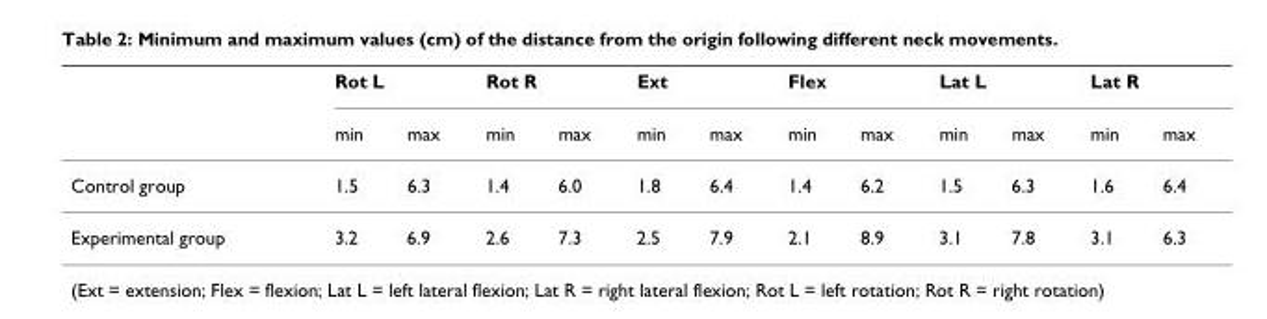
<table><thead><tr><td rowspan="2"></td><td colspan="2">Rot L</td><td colspan="2">Rot R</td><td colspan="2">Ext</td><td colspan="2">Flex</td><td colspan="2">Lat L</td><td colspan="2">Lat R</td></tr><tr><td>min</td><td>max</td><td>min</td><td>max</td><td>min</td><td>max</td><td>min</td><td>max</td><td>min</td><td>max</td><td>min</td><td>max</td></tr></thead><tbody><tr><td>Control group</td><td>1.5</td><td>6.3</td><td>1.4</td><td>6.0</td><td>1.8</td><td>6.4</td><td>1.4</td><td>6.2</td><td>1.5</td><td>6.3</td><td>1.6</td><td>6.4</td></tr><tr><td>Experimental group</td><td>3.2</td><td>6.9</td><td>2.6</td><td>7.3</td><td>2.5</td><td>7.9</td><td>2.1</td><td>8.9</td><td>3.1</td><td>7.8</td><td>3.1</td><td>6.3</td></tr></tbody></table>